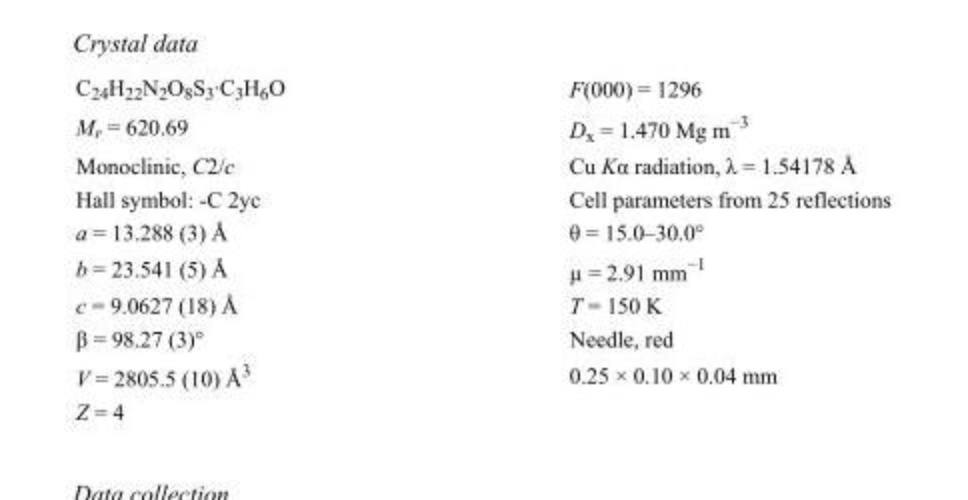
<table><tbody><tr><td>C<sub>24</sub>H<sub>22</sub>N<sub>2</sub>O<sub>8</sub>S<sub>3</sub>·C<sub>3</sub>H<sub>6</sub>O</td><td>F(000) = 1296</td></tr><tr><td>M<sub>r</sub> = 620.69</td><td>D<sub>x</sub> = 1.470 Mg m<sup>−3</sup></td></tr><tr><td>Monoclinic, C2/c</td><td>Cu Kα radiation, λ = 1.54178 Å</td></tr><tr><td>Hall symbol: -C 2yc</td><td>Cell parameters from 25 reflections</td></tr><tr><td>a = 13.288 (3) Å</td><td>θ = 15.0–30.0°</td></tr><tr><td>b = 23.541 (5) Å</td><td>µ = 2.91 mm<sup>−1</sup></td></tr><tr><td>c = 9.0627 (18) Å</td><td>T = 150 K</td></tr><tr><td>β = 98.27 (3)°</td><td>Needle, red</td></tr><tr><td>V = 2805.5 (10) Å<sup>3</sup></td><td>0.25 × 0.10 × 0.04 mm</td></tr><tr><td>Z = 4</td><td></td></tr></tbody></table>